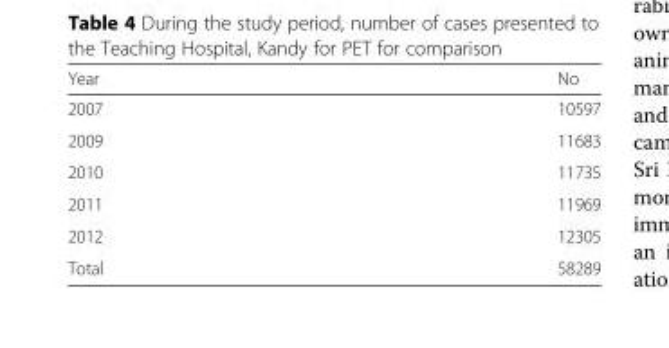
<table><thead><tr><td>Year</td><td>No</td></tr></thead><tbody><tr><td>2007</td><td>10597</td></tr><tr><td>2009</td><td>11683</td></tr><tr><td>2010</td><td>11735</td></tr><tr><td>2011</td><td>11969</td></tr><tr><td>2012</td><td>12305</td></tr><tr><td>Total</td><td>58289</td></tr></tbody></table>